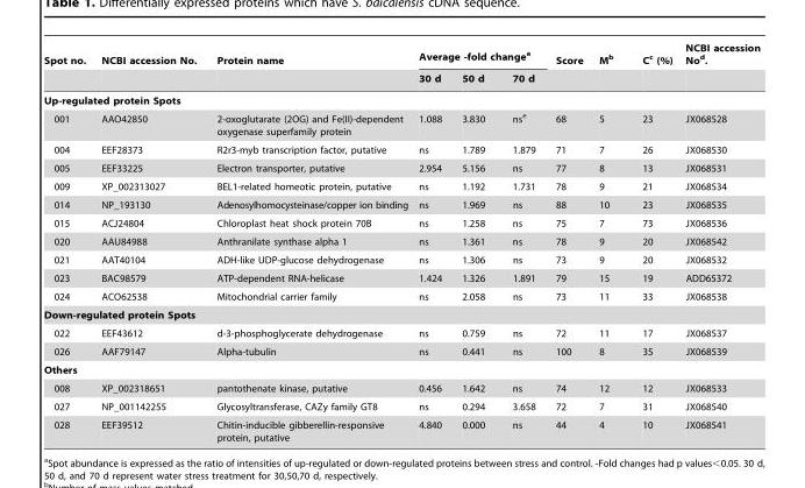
<table><thead><tr><td rowspan="2">Spot no.</td><td rowspan="2">NCBI accession No.</td><td rowspan="2">Protein name</td><td colspan="3">Average -fold change<sup>a</sup></td><td rowspan="2">Score</td><td rowspan="2">M<sup>b</sup></td><td rowspan="2">C<sup>c</sup> (%)</td><td rowspan="2">NCBI accession No<sup>d</sup>.</td></tr><tr><td>30 d</td><td>50 d</td><td>70 d</td></tr></thead><tbody><tr><td colspan="10">Up-regulated protein Spots</td></tr><tr><td>001</td><td>AAO42850</td><td>2-oxoglutarate (2OG) and Fe(II)-dependent oxygenase superfamily protein</td><td>1.088</td><td>3.830</td><td>ns<sup>e</sup></td><td>68</td><td>5</td><td>23</td><td>JX068528</td></tr><tr><td>004</td><td>EEF28373</td><td>R2r3-myb transcription factor, putative</td><td>ns</td><td>1.789</td><td>1.879</td><td>71</td><td>7</td><td>26</td><td>JX068530</td></tr><tr><td>005</td><td>EEF33225</td><td>Electron transporter, putative</td><td>2.954</td><td>5.156</td><td>ns</td><td>77</td><td>8</td><td>13</td><td>JX068531</td></tr><tr><td>009</td><td>XP_002313027</td><td>BEL1-related homeotic protein, putative</td><td>ns</td><td>1.192</td><td>1.731</td><td>78</td><td>9</td><td>21</td><td>JX068534</td></tr><tr><td>014</td><td>NP_193130</td><td>Adenosylhomocysteinase/copper ion binding</td><td>ns</td><td>1.969</td><td>ns</td><td>88</td><td>10</td><td>23</td><td>JX068535</td></tr><tr><td>015</td><td>ACJ24804</td><td>Chloroplast heat shock protein 70B</td><td>ns</td><td>1.258</td><td>ns</td><td>75</td><td>7</td><td>73</td><td>JX068536</td></tr><tr><td>020</td><td>AAU84988</td><td>Anthranilate synthase alpha 1</td><td>ns</td><td>1.361</td><td>ns</td><td>78</td><td>9</td><td>20</td><td>JX068542</td></tr><tr><td>021</td><td>AAT40104</td><td>ADH-like UDP-glucose dehydrogenase</td><td>ns</td><td>1.306</td><td>ns</td><td>73</td><td>9</td><td>20</td><td>JX068532</td></tr><tr><td>023</td><td>BAC98579</td><td>ATP-dependent RNA-helicase</td><td>1.424</td><td>1.326</td><td>1.891</td><td>79</td><td>15</td><td>19</td><td>ADD65372</td></tr><tr><td>024</td><td>ACO62538</td><td>Mitochondrial carrier family</td><td>ns</td><td>2.058</td><td>ns</td><td>73</td><td>11</td><td>33</td><td>JX068538</td></tr><tr><td colspan="10">Down-regulated protein Spots</td></tr><tr><td>022</td><td>EEF43612</td><td>d-3-phosphoglycerate dehydrogenase</td><td>ns</td><td>0.759</td><td>ns</td><td>72</td><td>11</td><td>17</td><td>JX068537</td></tr><tr><td>026</td><td>AAF79147</td><td>Alpha-tubulin</td><td>ns</td><td>0.441</td><td>ns</td><td>100</td><td>8</td><td>35</td><td>JX068539</td></tr><tr><td colspan="10">Others</td></tr><tr><td>008</td><td>XP_002318651</td><td>pantothenate kinase, putative</td><td>0.456</td><td>1.642</td><td>ns</td><td>74</td><td>12</td><td>12</td><td>JX068533</td></tr><tr><td>027</td><td>NP_001142255</td><td>Glycosyltransferase, CAZy family GT8</td><td>ns</td><td>0.294</td><td>3.658</td><td>72</td><td>7</td><td>31</td><td>JX068540</td></tr><tr><td>028</td><td>EEF39512</td><td>Chitin-inducible gibberellin-responsive protein, putative</td><td>4.840</td><td>0.000</td><td>ns</td><td>44</td><td>4</td><td>10</td><td>JX068541</td></tr></tbody></table>